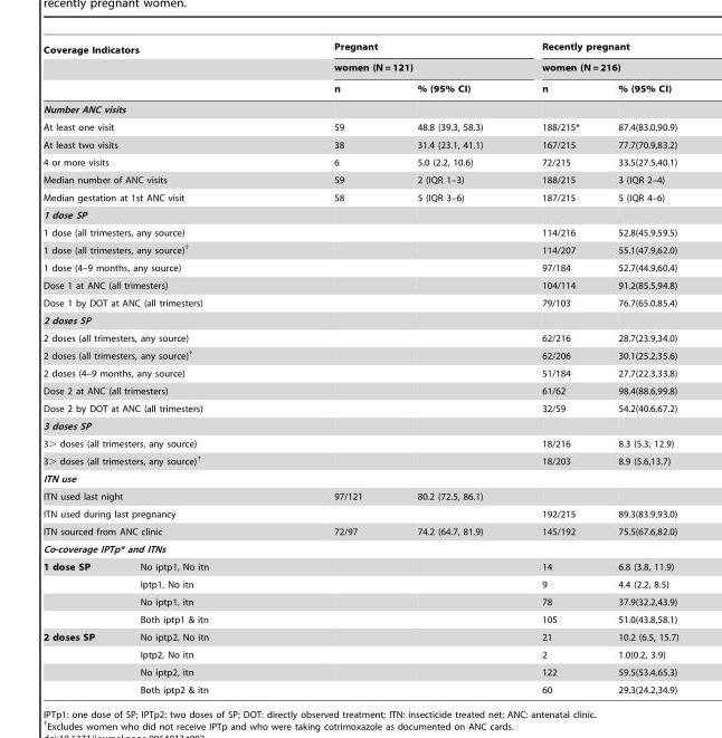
<table><thead><tr><td colspan="2">Coverage Indicators</td><td rowspan="2" colspan="2">Pregnant women (N = 121)</td><td rowspan="2" colspan="2">Recently pregnant women (N = 216)</td></tr><tr><td rowspan="2"></td><td rowspan="2"></td></tr><tr><td>n</td><td>% (95% CI)</td><td>n</td><td>% (95% CI)</td></tr></thead><tbody><tr><td colspan="6">Number ANC visits</td></tr><tr><td colspan="2">At least one visit</td><td>59</td><td>48.8 (39.3, 58.3)</td><td>188/215*</td><td>87.4(83.0,90.9)</td></tr><tr><td colspan="2">At least two visits</td><td>38</td><td>31.4 (23.1, 41.1)</td><td>167/215</td><td>77.7(70.9,83.2)</td></tr><tr><td colspan="2">4 or more visits</td><td>6</td><td>5.0 (2.2, 10.6)</td><td>72/215</td><td>33.5(27.5,40.1)</td></tr><tr><td colspan="2">Median number of ANC visits</td><td>59</td><td>2 (IQR 1–3)</td><td>188/215</td><td>3 (IQR 2–4)</td></tr><tr><td colspan="2">Median gestation at 1st ANC visit</td><td>58</td><td>5 (IQR 3–6)</td><td>187/215</td><td>5 (IQR 4–6)</td></tr><tr><td colspan="6">1 dose SP</td></tr><tr><td colspan="2">1 dose (all trimesters, any source)</td><td></td><td></td><td>114/216</td><td>52.8(45.9,59.5)</td></tr><tr><td colspan="2">1 dose (all trimesters, any source)†</td><td></td><td></td><td>114/207</td><td>55.1(47.9,62.0)</td></tr><tr><td colspan="2">1 dose (4–9 months, any source)</td><td></td><td></td><td>97/184</td><td>52.7(44.9,60.4)</td></tr><tr><td colspan="2">Dose 1 at ANC (all trimesters)</td><td></td><td></td><td>104/114</td><td>91.2(85.5,94.8)</td></tr><tr><td colspan="2">Dose 1 by DOT at ANC (all trimesters)</td><td></td><td></td><td>79/103</td><td>76.7(65.0,85.4)</td></tr><tr><td colspan="6">2 doses SP</td></tr><tr><td colspan="2">2 doses (all trimesters, any source)</td><td></td><td></td><td>62/216</td><td>28.7(23.9,34.0)</td></tr><tr><td colspan="2">2 doses (all trimesters, any source)†</td><td></td><td></td><td>62/206</td><td>30.1(25.2,35.6)</td></tr><tr><td colspan="2">2 doses (4–9 months, any source)</td><td></td><td></td><td>51/184</td><td>27.7(22.3,33.8)</td></tr><tr><td colspan="2">Dose 2 at ANC (all trimesters)</td><td></td><td></td><td>61/62</td><td>98.4(88.6,99.8)</td></tr><tr><td colspan="2">Dose 2 by DOT at ANC (all trimesters)</td><td></td><td></td><td>32/59</td><td>54.2(40.6,67.2)</td></tr><tr><td colspan="6">3 doses SP</td></tr><tr><td colspan="2">3&gt; doses (all trimesters, any source)</td><td></td><td></td><td>18/216</td><td>8.3 (5.3, 12.9)</td></tr><tr><td colspan="2">3&gt; doses (all trimesters, any source)†</td><td></td><td></td><td>18/203</td><td>8.9 (5.6,13.7)</td></tr><tr><td colspan="6">ITN use</td></tr><tr><td colspan="2">ITN used last night</td><td>97/121</td><td>80.2 (72.5, 86.1)</td><td></td><td></td></tr><tr><td colspan="2">ITN used during last pregnancy</td><td></td><td></td><td>192/215</td><td>89.3(83.9,93.0)</td></tr><tr><td colspan="2">ITN sourced from ANC clinic</td><td>72/97</td><td>74.2 (64.7, 81.9)</td><td>145/192</td><td>75.5(67.6,82.0)</td></tr><tr><td colspan="6">Co-coverage IPTp* and ITNs</td></tr><tr><td rowspan="4">1 dose SP</td><td>No iptp1, No itn</td><td></td><td></td><td>14</td><td>6.8 (3.8, 11.9)</td></tr><tr><td>Iptp1, No itn</td><td></td><td></td><td>9</td><td>4.4 (2.2, 8.5)</td></tr><tr><td>No iptp1, itn</td><td></td><td></td><td>78</td><td>37.9(32.2,43.9)</td></tr><tr><td>Both iptp1 &amp; itn</td><td></td><td></td><td>105</td><td>51.0(43.8,58.1)</td></tr><tr><td rowspan="4">2 doses SP</td><td>No iptp2, No itn</td><td></td><td></td><td>21</td><td>10.2 (6.5, 15.7)</td></tr><tr><td>Iptp2, No itn</td><td></td><td></td><td>2</td><td>1.0(0.2, 3.9)</td></tr><tr><td>No iptp2, itn</td><td></td><td></td><td>122</td><td>59.5(53.4,65.3)</td></tr><tr><td>Both iptp2 &amp; itn</td><td></td><td></td><td>60</td><td>29.3(24.2,34.9)</td></tr></tbody></table>